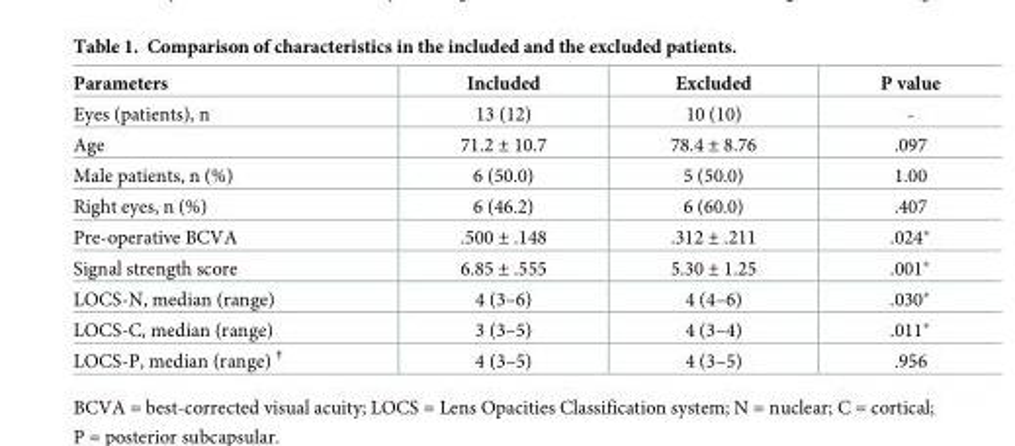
<table><thead><tr><td>Parameters</td><td>Included</td><td>Excluded</td><td>P value</td></tr></thead><tbody><tr><td>Eyes (patients), n</td><td>13 (12)</td><td>10 (10)</td><td>-</td></tr><tr><td>Age</td><td>71.2 ± 10.7</td><td>78.4 ± 8.76</td><td>.097</td></tr><tr><td>Male patients, n (%)</td><td>6 (50.0)</td><td>5 (50.0)</td><td>1.00</td></tr><tr><td>Right eyes, n (%)</td><td>6 (46.2)</td><td>6 (60.0)</td><td>.407</td></tr><tr><td>Pre-operative BCVA</td><td>.500 ± .148</td><td>.312 ± .211</td><td>.024*</td></tr><tr><td>Signal strength score</td><td>6.85 ± .555</td><td>5.30 ± 1.25</td><td>.001*</td></tr><tr><td>LOCS-N, median (range)</td><td>4 (3–6)</td><td>4 (4–6)</td><td>.030*</td></tr><tr><td>LOCS-C, median (range)</td><td>3 (3–5)</td><td>4 (3–4)</td><td>.011*</td></tr><tr><td>LOCS-P, median (range) <sup>†</sup></td><td>4 (3–5)</td><td>4 (3–5)</td><td>.956</td></tr></tbody></table>